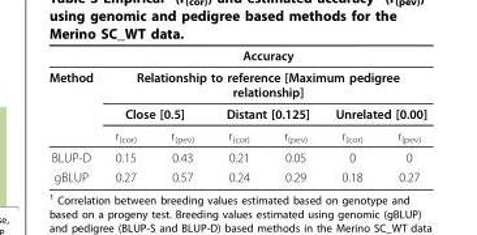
<table><thead><tr><td rowspan="4">Method</td><td rowspan="2" colspan="6">Accuracy Relationship to reference [Maximum pedigree relationship]</td></tr><tr></tr><tr><td colspan="2">Close [0.5]</td><td colspan="2">Distant [0.125]</td><td colspan="2">Unrelated [0.00]</td></tr><tr><td>r<sub>(cor)</sub></td><td>r<sub>(pev)</sub></td><td>r<sub>(cor)</sub></td><td>r<sub>(pev)</sub></td><td>r<sub>(cor)</sub></td><td>r<sub>(pev)</sub></td></tr></thead><tbody><tr><td>BLUP-D</td><td>0.15</td><td>0.43</td><td>0.21</td><td>0.05</td><td>0</td><td>0</td></tr><tr><td>gBLUP</td><td>0.27</td><td>0.57</td><td>0.24</td><td>0.29</td><td>0.18</td><td>0.27</td></tr></tbody></table>